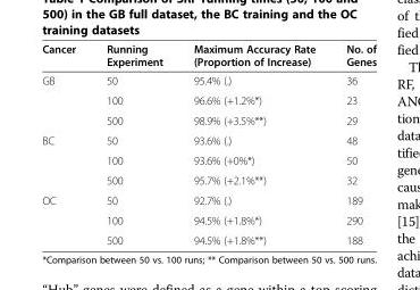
<table><thead><tr><td>Cancer</td><td>Running Experiment</td><td>Maximum Accuracy Rate (Proportion of Increase)</td><td>No. of Genes</td></tr></thead><tbody><tr><td rowspan="3">GB</td><td>50</td><td>95.4% (.)</td><td>36</td></tr><tr><td>100</td><td>96.6% (+1.2%*)</td><td>23</td></tr><tr><td>500</td><td>98.9% (+3.5%**)</td><td>29</td></tr><tr><td rowspan="3">BC</td><td>50</td><td>93.6% (.)</td><td>48</td></tr><tr><td>100</td><td>93.6% (+0%*)</td><td>50</td></tr><tr><td>500</td><td>95.7% (+2.1%**)</td><td>32</td></tr><tr><td rowspan="3">OC</td><td>50</td><td>92.7% (.)</td><td>189</td></tr><tr><td>100</td><td>94.5% (+1.8%*)</td><td>290</td></tr><tr><td>500</td><td>94.5% (+1.8%**)</td><td>188</td></tr></tbody></table>